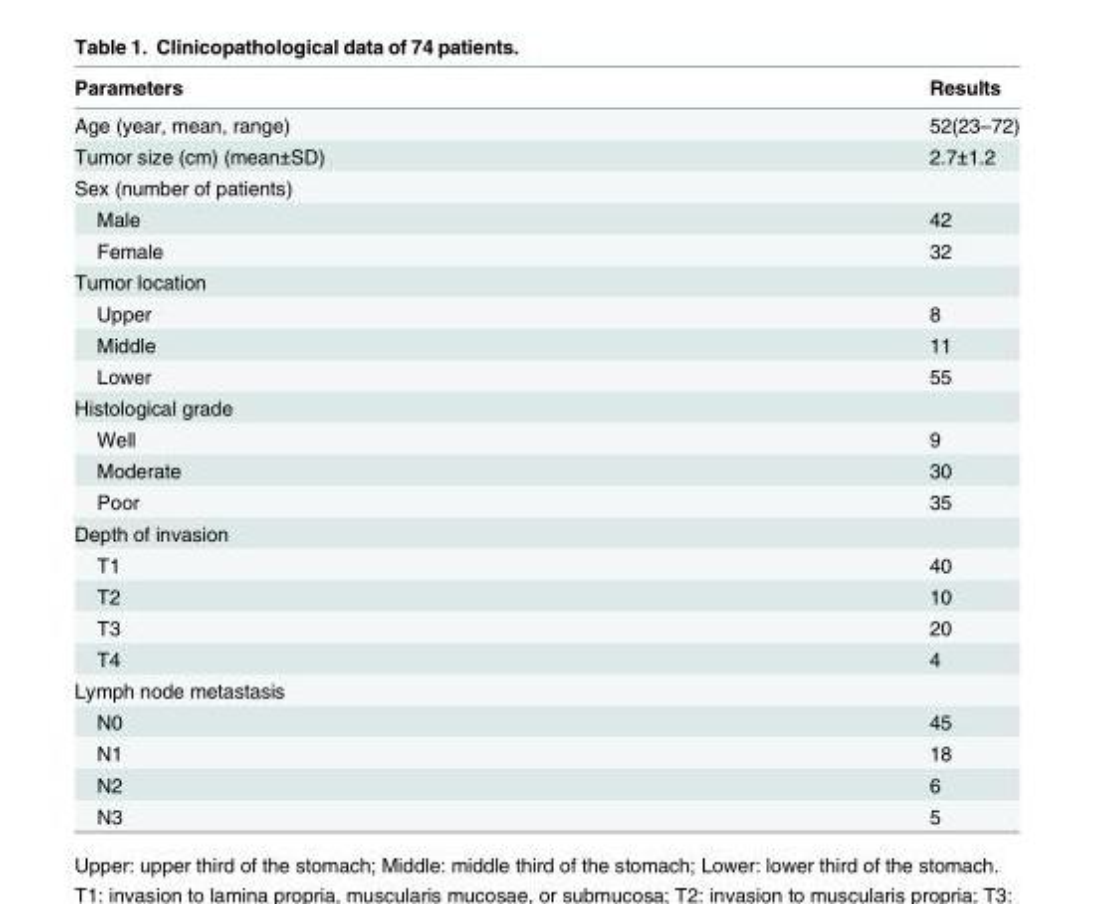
<table><thead><tr><td>Parameters</td><td>Results</td></tr></thead><tbody><tr><td>Age (year, mean, range)</td><td>52(23–72)</td></tr><tr><td>Tumor size (cm) (mean±SD)</td><td>2.7±1.2</td></tr><tr><td colspan="2">Sex (number of patients)</td></tr><tr><td>Male</td><td>42</td></tr><tr><td>Female</td><td>32</td></tr><tr><td colspan="2">Tumor location</td></tr><tr><td>Upper</td><td>8</td></tr><tr><td>Middle</td><td>11</td></tr><tr><td>Lower</td><td>55</td></tr><tr><td colspan="2">Histological grade</td></tr><tr><td>Well</td><td>9</td></tr><tr><td>Moderate</td><td>30</td></tr><tr><td>Poor</td><td>35</td></tr><tr><td colspan="2">Depth of invasion</td></tr><tr><td>T1</td><td>40</td></tr><tr><td>T2</td><td>10</td></tr><tr><td>T3</td><td>20</td></tr><tr><td>T4</td><td>4</td></tr><tr><td colspan="2">Lymph node metastasis</td></tr><tr><td>N0</td><td>45</td></tr><tr><td>N1</td><td>18</td></tr><tr><td>N2</td><td>6</td></tr><tr><td>N3</td><td>5</td></tr></tbody></table>